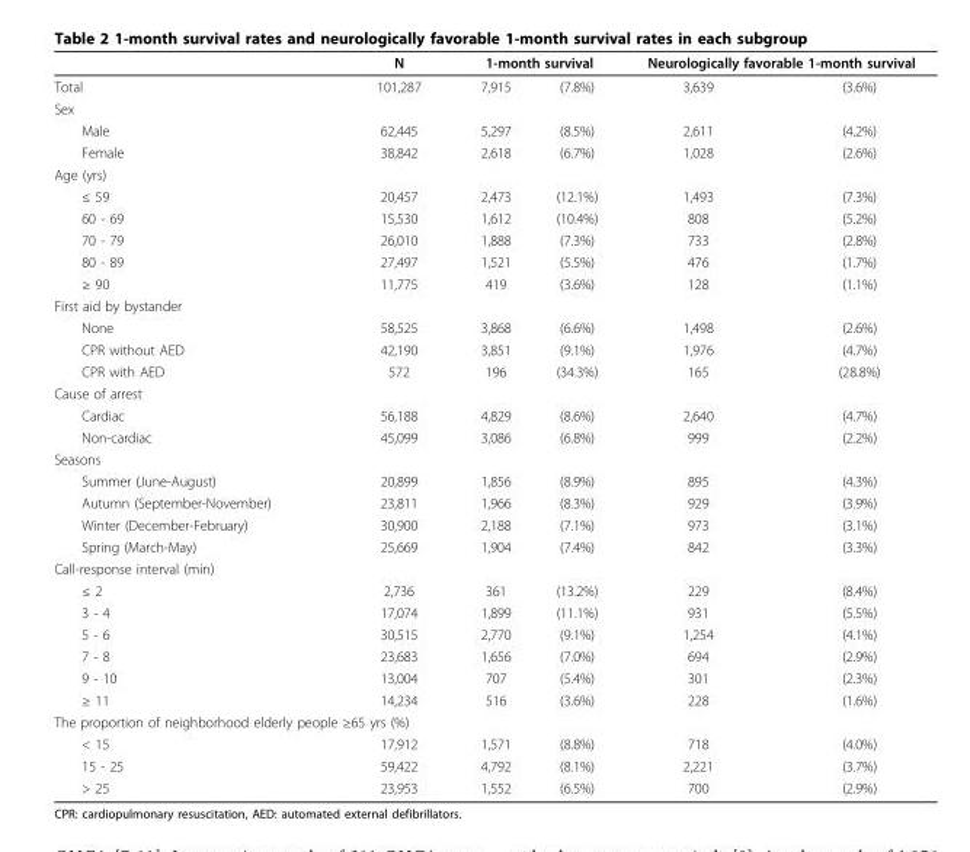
<table><thead><tr><td rowspan="2">Total</td><td rowspan="2">N 101,287</td><td colspan="2">1-month survival</td><td colspan="2">Neurologically favorable 1-month survival</td></tr><tr><td>7,915</td><td>(7.8%)</td><td>3,639</td><td>(3.6%)</td></tr></thead><tbody><tr><td colspan="6">Sex</td></tr><tr><td>Male</td><td>62,445</td><td>5,297</td><td>(8.5%)</td><td>2,611</td><td>(4.2%)</td></tr><tr><td>Female</td><td>38,842</td><td>2,618</td><td>(6.7%)</td><td>1,028</td><td>(2.6%)</td></tr><tr><td colspan="6">Age (yrs)</td></tr><tr><td>≤ 59</td><td>20,457</td><td>2,473</td><td>(12.1%)</td><td>1,493</td><td>(7.3%)</td></tr><tr><td>60 - 69</td><td>15,530</td><td>1,612</td><td>(10.4%)</td><td>808</td><td>(5.2%)</td></tr><tr><td>70 - 79</td><td>26,010</td><td>1,888</td><td>(7.3%)</td><td>733</td><td>(2.8%)</td></tr><tr><td>80 - 89</td><td>27,497</td><td>1,521</td><td>(5.5%)</td><td>476</td><td>(1.7%)</td></tr><tr><td>≥ 90</td><td>11,775</td><td>419</td><td>(3.6%)</td><td>128</td><td>(1.1%)</td></tr><tr><td colspan="6">First aid by bystander</td></tr><tr><td>None</td><td>58,525</td><td>3,868</td><td>(6.6%)</td><td>1,498</td><td>(2.6%)</td></tr><tr><td>CPR without AED</td><td>42,190</td><td>3,851</td><td>(9.1%)</td><td>1,976</td><td>(4.7%)</td></tr><tr><td>CPR with AED</td><td>572</td><td>196</td><td>(34.3%)</td><td>165</td><td>(28.8%)</td></tr><tr><td colspan="6">Cause of arrest</td></tr><tr><td>Cardiac</td><td>56,188</td><td>4,829</td><td>(8.6%)</td><td>2,640</td><td>(4.7%)</td></tr><tr><td>Non-cardiac</td><td>45,099</td><td>3,086</td><td>(6.8%)</td><td>999</td><td>(2.2%)</td></tr><tr><td colspan="6">Seasons</td></tr><tr><td>Summer (June-August)</td><td>20,899</td><td>1,856</td><td>(8.9%)</td><td>895</td><td>(4.3%)</td></tr><tr><td>Autumn (September-November)</td><td>23,811</td><td>1,966</td><td>(8.3%)</td><td>929</td><td>(3.9%)</td></tr><tr><td>Winter (December-February)</td><td>30,900</td><td>2,188</td><td>(7.1%)</td><td>973</td><td>(3.1%)</td></tr><tr><td>Spring (March-May)</td><td>25,669</td><td>1,904</td><td>(7.4%)</td><td>842</td><td>(3.3%)</td></tr><tr><td colspan="6">Call-response interval (min)</td></tr><tr><td>≤ 2</td><td>2,736</td><td>361</td><td>(13.2%)</td><td>229</td><td>(8.4%)</td></tr><tr><td>3 - 4</td><td>17,074</td><td>1,899</td><td>(11.1%)</td><td>931</td><td>(5.5%)</td></tr><tr><td>5 - 6</td><td>30,515</td><td>2,770</td><td>(9.1%)</td><td>1,254</td><td>(4.1%)</td></tr><tr><td>7 - 8</td><td>23,683</td><td>1,656</td><td>(7.0%)</td><td>694</td><td>(2.9%)</td></tr><tr><td>9 - 10</td><td>13,004</td><td>707</td><td>(5.4%)</td><td>301</td><td>(2.3%)</td></tr><tr><td>≥ 11</td><td>14,234</td><td>516</td><td>(3.6%)</td><td>228</td><td>(1.6%)</td></tr><tr><td colspan="6">The proportion of neighborhood elderly people ≥65 yrs (%)</td></tr><tr><td>&lt; 15</td><td>17,912</td><td>1,571</td><td>(8.8%)</td><td>718</td><td>(4.0%)</td></tr><tr><td>15 - 25</td><td>59,422</td><td>4,792</td><td>(8.1%)</td><td>2,221</td><td>(3.7%)</td></tr><tr><td>&gt; 25</td><td>23,953</td><td>1,552</td><td>(6.5%)</td><td>700</td><td>(2.9%)</td></tr></tbody></table>